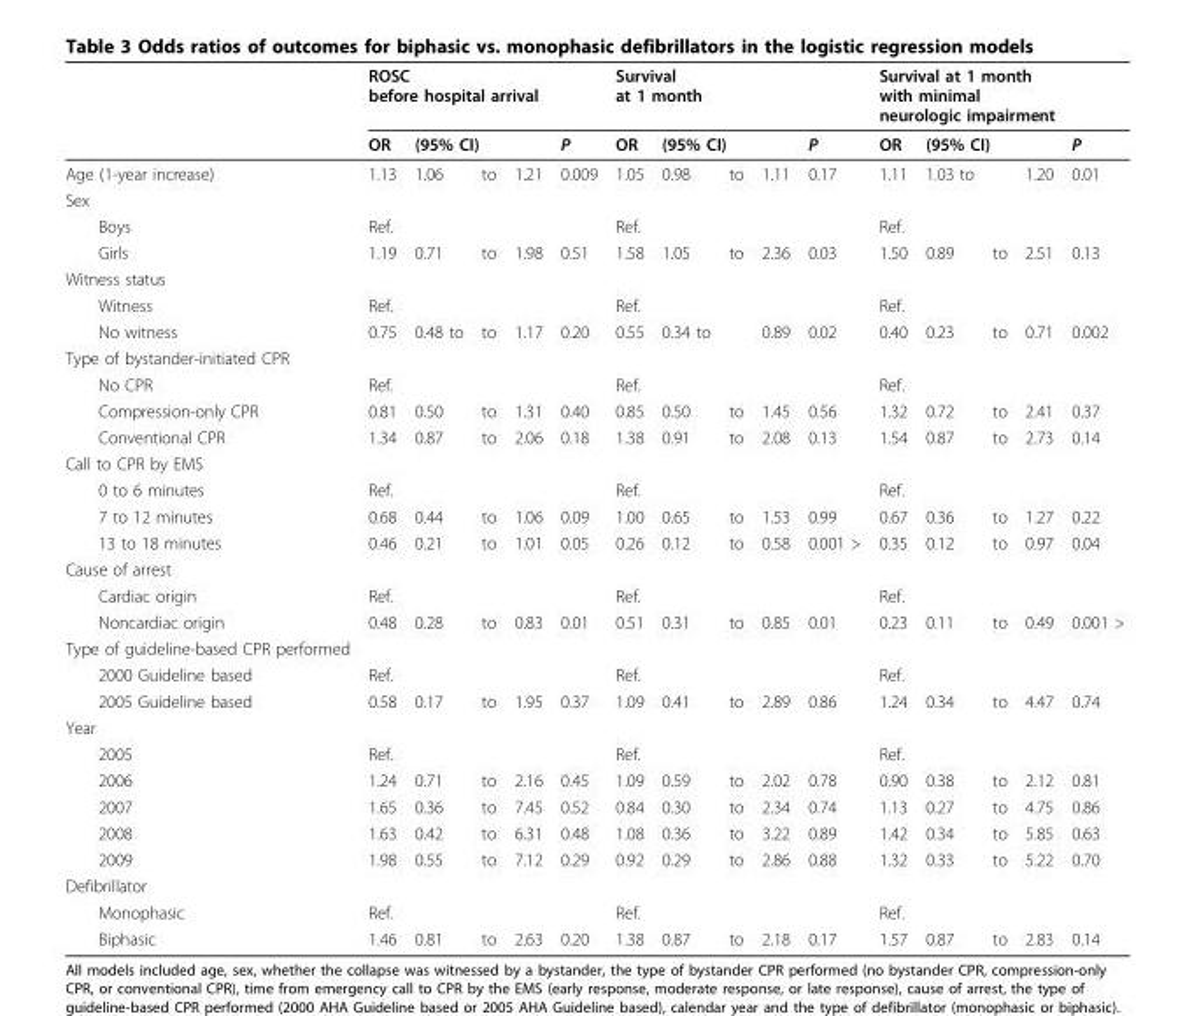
<table><thead><tr><td rowspan="3">Age (1-year increase)</td><td colspan="5">ROSC before hospital arrival</td><td colspan="5">Survival at 1 month</td><td colspan="5">Survival at 1 month with minimal neurologic impairment</td></tr><tr><td rowspan="2">OR 1.13</td><td colspan="3">(95% CI)</td><td rowspan="2">P 0.009</td><td rowspan="2">OR 1.05</td><td colspan="3">(95% CI)</td><td rowspan="2">P 0.17</td><td rowspan="2">OR 1.11</td><td colspan="3">(95% CI)</td><td rowspan="2">P 0.01</td></tr><tr><td>1.06</td><td>to</td><td>1.21</td><td>0.98</td><td>to</td><td>1.11</td><td>1.03 to</td><td></td><td>1.20</td></tr></thead><tbody><tr><td colspan="16">Sex</td></tr><tr><td>Boys</td><td>Ref.</td><td></td><td></td><td></td><td></td><td>Ref.</td><td></td><td></td><td></td><td></td><td>Ref.</td><td></td><td></td><td></td><td></td></tr><tr><td>Girls</td><td>1.19</td><td>0.71</td><td>to</td><td>1.98</td><td>0.51</td><td>1.58</td><td>1.05</td><td>to</td><td>2.36</td><td>0.03</td><td>1.50</td><td>0.89</td><td>to</td><td>2.51</td><td>0.13</td></tr><tr><td colspan="16">Witness status</td></tr><tr><td>Witness</td><td>Ref.</td><td></td><td></td><td></td><td></td><td>Ref.</td><td></td><td></td><td></td><td></td><td>Ref.</td><td></td><td></td><td></td><td></td></tr><tr><td>No witness</td><td>0.75</td><td>0.48 to</td><td>to</td><td>1.17</td><td>0.20</td><td>0.55</td><td>0.34 to</td><td></td><td>0.89</td><td>0.02</td><td>0.40</td><td>0.23</td><td>to</td><td>0.71</td><td>0.002</td></tr><tr><td colspan="16">Type of bystander-initiated CPR</td></tr><tr><td>No CPR</td><td>Ref.</td><td></td><td></td><td></td><td></td><td>Ref.</td><td></td><td></td><td></td><td></td><td>Ref.</td><td></td><td></td><td></td><td></td></tr><tr><td>Compression-only CPR</td><td>0.81</td><td>0.50</td><td>to</td><td>1.31</td><td>0.40</td><td>0.85</td><td>0.50</td><td>to</td><td>1.45</td><td>0.56</td><td>1.32</td><td>0.72</td><td>to</td><td>2.41</td><td>0.37</td></tr><tr><td>Conventional CPR</td><td>1.34</td><td>0.87</td><td>to</td><td>2.06</td><td>0.18</td><td>1.38</td><td>0.91</td><td>to</td><td>2.08</td><td>0.13</td><td>1.54</td><td>0.87</td><td>to</td><td>2.73</td><td>0.14</td></tr><tr><td colspan="16">Call to CPR by EMS</td></tr><tr><td>0 to 6 minutes</td><td>Ref.</td><td></td><td></td><td></td><td></td><td>Ref.</td><td></td><td></td><td></td><td></td><td>Ref.</td><td></td><td></td><td></td><td></td></tr><tr><td>7 to 12 minutes</td><td>0.68</td><td>0.44</td><td>to</td><td>1.06</td><td>0.09</td><td>1.00</td><td>0.65</td><td>to</td><td>1.53</td><td>0.99</td><td>0.67</td><td>0.36</td><td>to</td><td>1.27</td><td>0.22</td></tr><tr><td>13 to 18 minutes</td><td>0.46</td><td>0.21</td><td>to</td><td>1.01</td><td>0.05</td><td>0.26</td><td>0.12</td><td>to</td><td>0.58</td><td>0.001 &gt;</td><td>0.35</td><td>0.12</td><td>to</td><td>0.97</td><td>0.04</td></tr><tr><td colspan="16">Cause of arrest</td></tr><tr><td>Cardiac origin</td><td>Ref.</td><td></td><td></td><td></td><td></td><td>Ref.</td><td></td><td></td><td></td><td></td><td>Ref.</td><td></td><td></td><td></td><td></td></tr><tr><td>Noncardiac origin</td><td>0.48</td><td>0.28</td><td>to</td><td>0.83</td><td>0.01</td><td>0.51</td><td>0.31</td><td>to</td><td>0.85</td><td>0.01</td><td>0.23</td><td>0.11</td><td>to</td><td>0.49</td><td>0.001 &gt;</td></tr><tr><td colspan="16">Type of guideline-based CPR performed</td></tr><tr><td>2000 Guideline based</td><td>Ref.</td><td></td><td></td><td></td><td></td><td>Ref.</td><td></td><td></td><td></td><td></td><td>Ref.</td><td></td><td></td><td></td><td></td></tr><tr><td>2005 Guideline based</td><td>0.58</td><td>0.17</td><td>to</td><td>1.95</td><td>0.37</td><td>1.09</td><td>0.41</td><td>to</td><td>2.89</td><td>0.86</td><td>1.24</td><td>0.34</td><td>to</td><td>4.47</td><td>0.74</td></tr><tr><td colspan="16">Year</td></tr><tr><td>2005</td><td>Ref.</td><td></td><td></td><td></td><td></td><td>Ref.</td><td></td><td></td><td></td><td></td><td>Ref.</td><td></td><td></td><td></td><td></td></tr><tr><td>2006</td><td>1.24</td><td>0.71</td><td>to</td><td>2.16</td><td>0.45</td><td>1.09</td><td>0.59</td><td>to</td><td>2.02</td><td>0.78</td><td>0.90</td><td>0.38</td><td>to</td><td>2.12</td><td>0.81</td></tr><tr><td>2007</td><td>1.65</td><td>0.36</td><td>to</td><td>7.45</td><td>0.52</td><td>0.84</td><td>0.30</td><td>to</td><td>2.34</td><td>0.74</td><td>1.13</td><td>0.27</td><td>to</td><td>4.75</td><td>0.86</td></tr><tr><td>2008</td><td>1.63</td><td>0.42</td><td>to</td><td>6.31</td><td>0.48</td><td>1.08</td><td>0.36</td><td>to</td><td>3.22</td><td>0.89</td><td>1.42</td><td>0.34</td><td>to</td><td>5.85</td><td>0.63</td></tr><tr><td>2009</td><td>1.98</td><td>0.55</td><td>to</td><td>7.12</td><td>0.29</td><td>0.92</td><td>0.29</td><td>to</td><td>2.86</td><td>0.88</td><td>1.32</td><td>0.33</td><td>to</td><td>5.22</td><td>0.70</td></tr><tr><td colspan="16">Defibrillator</td></tr><tr><td>Monophasic</td><td>Ref.</td><td></td><td></td><td></td><td></td><td>Ref.</td><td></td><td></td><td></td><td></td><td>Ref.</td><td></td><td></td><td></td><td></td></tr><tr><td>Biphasic</td><td>1.46</td><td>0.81</td><td>to</td><td>2.63</td><td>0.20</td><td>1.38</td><td>0.87</td><td>to</td><td>2.18</td><td>0.17</td><td>1.57</td><td>0.87</td><td>to</td><td>2.83</td><td>0.14</td></tr></tbody></table>